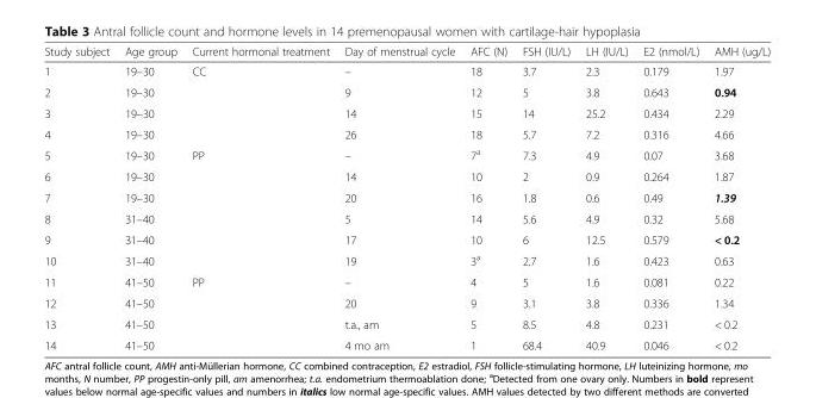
<table><thead><tr><td>Study subject</td><td>Age group</td><td>Current hormonal treatment</td><td>Day of menstrual cycle</td><td>AFC (N)</td><td>FSH (IU/L)</td><td>LH (IU/L)</td><td>E2 (nmol/L)</td><td>AMH (ug/L)</td></tr></thead><tbody><tr><td>1</td><td>19–30</td><td>CC</td><td>–</td><td>18</td><td>3.7</td><td>2.3</td><td>0.179</td><td>1.97</td></tr><tr><td>2</td><td>19–30</td><td></td><td>9</td><td>12</td><td>5</td><td>3.8</td><td>0.643</td><td>0.94</td></tr><tr><td>3</td><td>19–30</td><td></td><td>14</td><td>15</td><td>14</td><td>25.2</td><td>0.434</td><td>2.29</td></tr><tr><td>4</td><td>19–30</td><td></td><td>26</td><td>18</td><td>5.7</td><td>7.2</td><td>0.316</td><td>4.66</td></tr><tr><td>5</td><td>19–30</td><td>PP</td><td>–</td><td>7<sup>a</sup></td><td>7.3</td><td>4.9</td><td>0.07</td><td>3.68</td></tr><tr><td>6</td><td>19–30</td><td></td><td>14</td><td>10</td><td>2</td><td>0.9</td><td>0.264</td><td>1.87</td></tr><tr><td>7</td><td>19–30</td><td></td><td>20</td><td>16</td><td>1.8</td><td>0.6</td><td>0.49</td><td>1.39</td></tr><tr><td>8</td><td>31–40</td><td></td><td>5</td><td>14</td><td>5.6</td><td>4.9</td><td>0.32</td><td>5.68</td></tr><tr><td>9</td><td>31–40</td><td></td><td>17</td><td>10</td><td>6</td><td>12.5</td><td>0.579</td><td>&lt; 0.2</td></tr><tr><td>10</td><td>31–40</td><td></td><td>19</td><td>3<sup>a</sup></td><td>2.7</td><td>1.6</td><td>0.423</td><td>0.63</td></tr><tr><td>11</td><td>41–50</td><td>PP</td><td>–</td><td>4</td><td>5</td><td>1.6</td><td>0.081</td><td>0.22</td></tr><tr><td>12</td><td>41–50</td><td></td><td>20</td><td>9</td><td>3.1</td><td>3.8</td><td>0.336</td><td>1.34</td></tr><tr><td>13</td><td>41–50</td><td></td><td>t.a., am</td><td>5</td><td>8.5</td><td>4.8</td><td>0.231</td><td>&lt; 0.2</td></tr><tr><td>14</td><td>41–50</td><td></td><td>4 mo am</td><td>1</td><td>68.4</td><td>40.9</td><td>0.046</td><td>&lt; 0.2</td></tr></tbody></table>